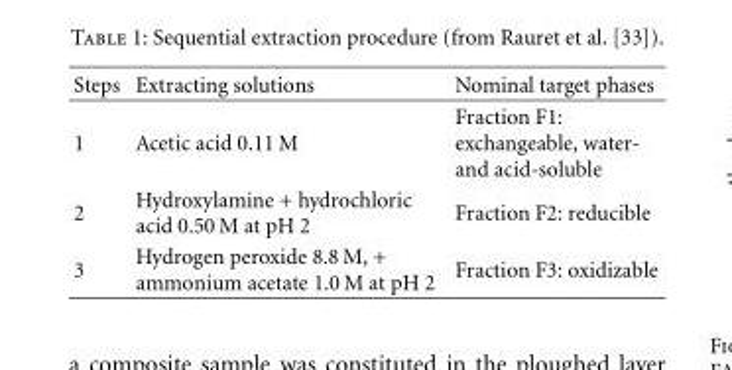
<table><thead><tr><td>Steps</td><td>Extracting solutions</td><td>Nominal target phases</td></tr></thead><tbody><tr><td>1</td><td>Acetic acid 0.11 M</td><td>Fraction F1: exchangeable, water- and acid-soluble</td></tr><tr><td>2</td><td>Hydroxylamine + hydrochloric acid 0.50 M at pH 2</td><td>Fraction F2: reducible</td></tr><tr><td>3</td><td>Hydrogen peroxide 8.8 M, + ammonium acetate 1.0 M at pH 2</td><td>Fraction F3: oxidizable</td></tr></tbody></table>